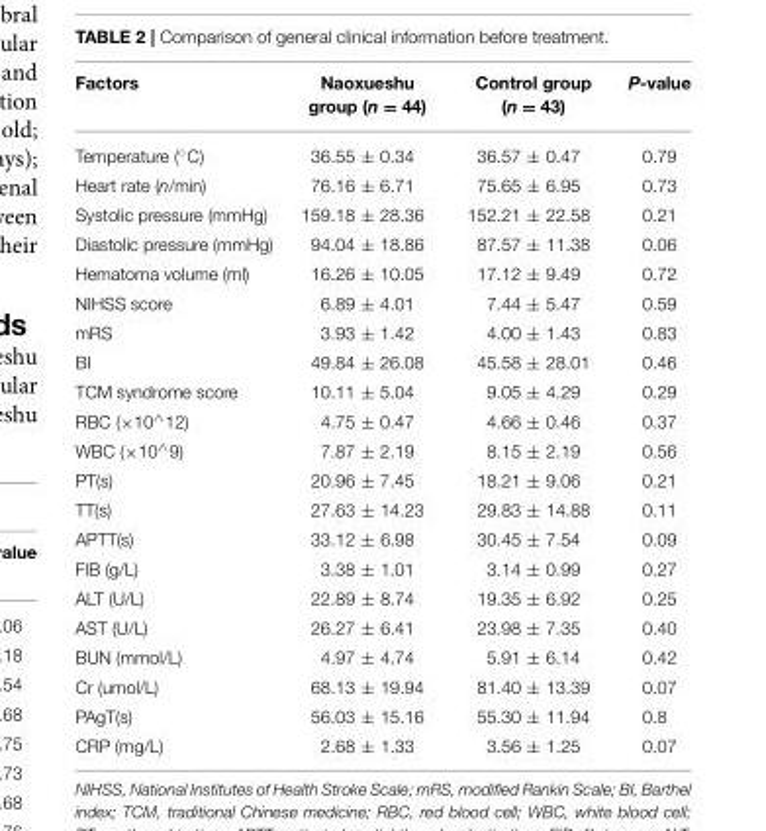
<table><thead><tr><td>Factors</td><td>Naoxueshu group (n = 44)</td><td>Control group (n = 43)</td><td>P-value</td></tr></thead><tbody><tr><td>Temperature (◦C)</td><td>36.55 ± 0.34</td><td>36.57 ± 0.47</td><td>0.79</td></tr><tr><td>Heart rate (n/min)</td><td>76.16 ± 6.71</td><td>75.65 ± 6.95</td><td>0.73</td></tr><tr><td>Systolic pressure (mmHg)</td><td>159.18 ± 28.36</td><td>152.21 ± 22.58</td><td>0.21</td></tr><tr><td>Diastolic pressure (mmHg)</td><td>94.04 ± 18.86</td><td>87.57 ± 11.38</td><td>0.06</td></tr><tr><td>Hematoma volume (ml)</td><td>16.26 ± 10.05</td><td>17.12 ± 9.49</td><td>0.72</td></tr><tr><td>NIHSS score</td><td>6.89 ± 4.01</td><td>7.44 ± 5.47</td><td>0.59</td></tr><tr><td>mRS</td><td>3.93 ± 1.42</td><td>4.00 ± 1.43</td><td>0.83</td></tr><tr><td>BI</td><td>49.84 ± 26.08</td><td>45.58 ± 28.01</td><td>0.46</td></tr><tr><td>TCM syndrome score</td><td>10.11 ± 5.04</td><td>9.05 ± 4.29</td><td>0.29</td></tr><tr><td>RBC (×10<sup>∧</sup>12)</td><td>4.75 ± 0.47</td><td>4.66 ± 0.46</td><td>0.37</td></tr><tr><td>WBC (×10<sup>∧</sup>9)</td><td>7.87 ± 2.19</td><td>8.15 ± 2.19</td><td>0.56</td></tr><tr><td>PT(s)</td><td>20.96 ± 7.45</td><td>18.21 ± 9.06</td><td>0.21</td></tr><tr><td>TT(s)</td><td>27.63 ± 14.23</td><td>29.83 ± 14.88</td><td>0.11</td></tr><tr><td>APTT(s)</td><td>33.12 ± 6.98</td><td>30.45 ± 7.54</td><td>0.09</td></tr><tr><td>FIB (g/L)</td><td>3.38 ± 1.01</td><td>3.14 ± 0.99</td><td>0.27</td></tr><tr><td>ALT (U/L)</td><td>22.89 ± 8.74</td><td>19.35 ± 6.92</td><td>0.25</td></tr><tr><td>AST (U/L)</td><td>26.27 ± 6.41</td><td>23.98 ± 7.35</td><td>0.40</td></tr><tr><td>BUN (mmol/L)</td><td>4.97 ± 4.74</td><td>5.91 ± 6.14</td><td>0.42</td></tr><tr><td>Cr (umol/L)</td><td>68.13 ± 19.94</td><td>81.40 ± 13.39</td><td>0.07</td></tr><tr><td>PAgT(s)</td><td>56.03 ± 15.16</td><td>55.30 ± 11.94</td><td>0.8</td></tr><tr><td>CRP (mg/L)</td><td>2.68 ± 1.33</td><td>3.56 ± 1.25</td><td>0.07</td></tr></tbody></table>